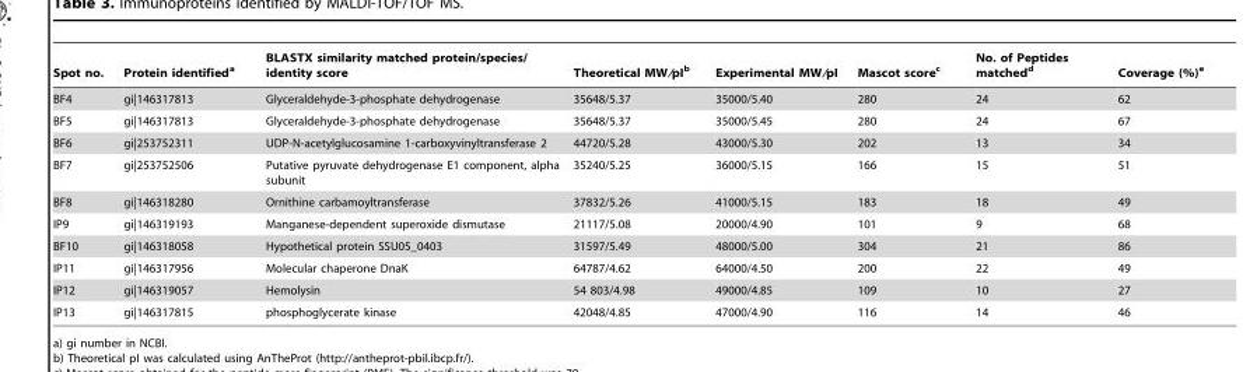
<table><thead><tr><td>Spot no.</td><td>Protein identified<sup>a</sup></td><td>BLASTX similarity matched protein/species/ identity score</td><td>Theoretical MW/pI<sup>b</sup></td><td>Experimental MW/pI</td><td>Mascot score<sup>c</sup></td><td>No. of Peptides matched<sup>d</sup></td><td>Coverage (%)<sup>e</sup></td></tr></thead><tbody><tr><td>BF4</td><td>gi|146317813</td><td>Glyceraldehyde-3-phosphate dehydrogenase</td><td>35648/5.37</td><td>35000/5.40</td><td>280</td><td>24</td><td>62</td></tr><tr><td>BF5</td><td>gi|146317813</td><td>Glyceraldehyde-3-phosphate dehydrogenase</td><td>35648/5.37</td><td>35000/5.45</td><td>280</td><td>24</td><td>67</td></tr><tr><td>BF6</td><td>gi|253752311</td><td>UDP-N-acetylglucosamine 1-carboxyvinyltransferase 2</td><td>44720/5.28</td><td>43000/5.30</td><td>202</td><td>13</td><td>34</td></tr><tr><td>BF7</td><td>gi|253752506</td><td>Putative pyruvate dehydrogenase E1 component, alpha subunit</td><td>35240/5.25</td><td>36000/5.15</td><td>166</td><td>15</td><td>51</td></tr><tr><td>BF8</td><td>gi|146318280</td><td>Ornithine carbamoyltransferase</td><td>37832/5.26</td><td>41000/5.15</td><td>183</td><td>18</td><td>49</td></tr><tr><td>IP9</td><td>gi|146319193</td><td>Manganese-dependent superoxide dismutase</td><td>21117/5.08</td><td>20000/4.90</td><td>101</td><td>9</td><td>68</td></tr><tr><td>BF10</td><td>gi|146318058</td><td>Hypothetical protein SSU05_0403</td><td>31597/5.49</td><td>48000/5.00</td><td>304</td><td>21</td><td>86</td></tr><tr><td>IP11</td><td>gi|146317956</td><td>Molecular chaperone DnaK</td><td>64787/4.62</td><td>64000/4.50</td><td>200</td><td>22</td><td>49</td></tr><tr><td>IP12</td><td>gi|146319057</td><td>Hemolysin</td><td>54 803/4.98</td><td>49000/4.85</td><td>109</td><td>10</td><td>27</td></tr><tr><td>IP13</td><td>gi|146317815</td><td>phosphoglycerate kinase</td><td>42048/4.85</td><td>47000/4.90</td><td>116</td><td>14</td><td>46</td></tr></tbody></table>